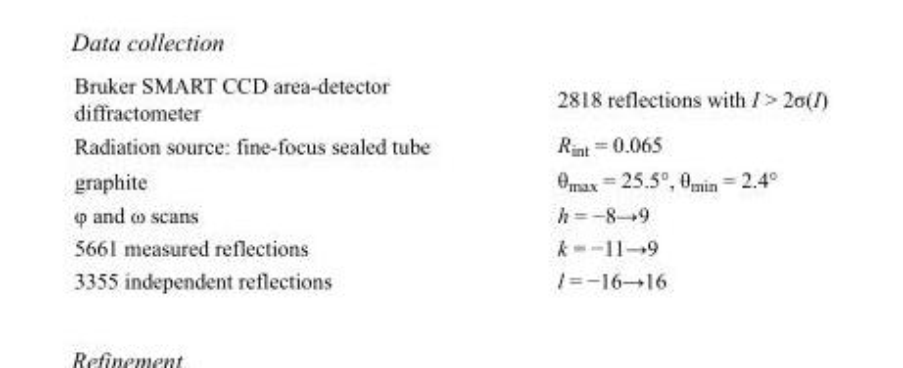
<table><tbody><tr><td>Bruker SMART CCD area-detector diffractometer</td><td>2818 reflections with I &gt; 2σ(I)</td></tr><tr><td>Radiation source: fine-focus sealed tube</td><td>R<sub>int</sub> = 0.065</td></tr><tr><td>graphite</td><td>θ<sub>max</sub> = 25.5°, θ<sub>min</sub> = 2.4°</td></tr><tr><td>φ and ω scans</td><td>h = −8→9</td></tr><tr><td>5661 measured reflections</td><td>k = −11→9</td></tr><tr><td>3355 independent reflections</td><td>l = −16→16</td></tr></tbody></table>